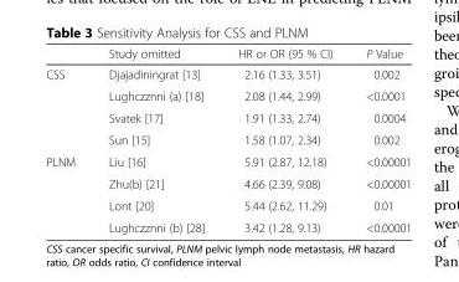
<table><thead><tr><td></td><td>Study omitted</td><td>HR or OR (95 % CI)</td><td>P Value</td></tr></thead><tbody><tr><td rowspan="4">CSS</td><td>Djajadiningrat [13]</td><td>2.16 (1.33, 3.51)</td><td>0.002</td></tr><tr><td>Lughczznni (a) [18]</td><td>2.08 (1.44, 2.99)</td><td>&lt;0.0001</td></tr><tr><td>Svatek [17]</td><td>1.91 (1.33, 2.74)</td><td>0.0004</td></tr><tr><td>Sun [15]</td><td>1.58 (1.07, 2.34)</td><td>0.002</td></tr><tr><td rowspan="4">PLNM</td><td>Liu [16]</td><td>5.91 (2.87, 12.18)</td><td>&lt;0.00001</td></tr><tr><td>Zhu(b) [21]</td><td>4.66 (2.39, 9.08)</td><td>&lt;0.00001</td></tr><tr><td>Lont [20]</td><td>5.44 (2.62, 11.29)</td><td>0.01</td></tr><tr><td>Lughczznni (b) [28]</td><td>3.42 (1.28, 9.13)</td><td>&lt;0.00001</td></tr></tbody></table>